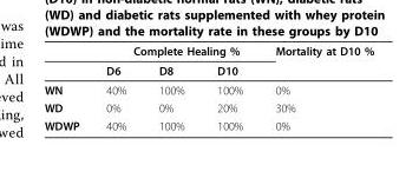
<table><thead><tr><td rowspan="2"></td><td colspan="3">Complete Healing %</td><td rowspan="2">Mortality at D10 %</td></tr><tr><td>D6</td><td>D8</td><td>D10</td></tr></thead><tbody><tr><td>WN</td><td>40%</td><td>100%</td><td>100%</td><td>0%</td></tr><tr><td>WD</td><td>0%</td><td>0%</td><td>20%</td><td>30%</td></tr><tr><td>WDWP</td><td>40%</td><td>100%</td><td>100%</td><td>0%</td></tr></tbody></table>